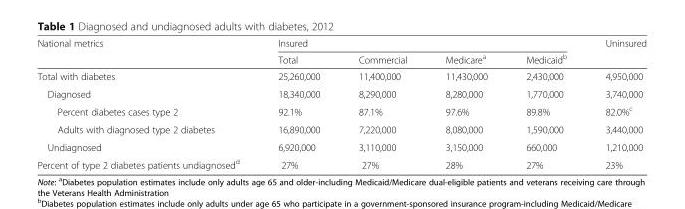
<table><thead><tr><td rowspan="2">National metrics</td><td colspan="4">Insured</td><td rowspan="2">Uninsured</td></tr><tr><td>Total</td><td>Commercial</td><td>Medicare<sup>a</sup></td><td>Medicaid<sup>b</sup></td></tr></thead><tbody><tr><td>Total with diabetes</td><td>25,260,000</td><td>11,400,000</td><td>11,430,000</td><td>2,430,000</td><td>4,950,000</td></tr><tr><td>Diagnosed</td><td>18,340,000</td><td>8,290,000</td><td>8,280,000</td><td>1,770,000</td><td>3,740,000</td></tr><tr><td>Percent diabetes cases type 2</td><td>92.1%</td><td>87.1%</td><td>97.6%</td><td>89.8%</td><td>82.0%<sup>c</sup></td></tr><tr><td>Adults with diagnosed type 2 diabetes</td><td>16,890,000</td><td>7,220,000</td><td>8,080,000</td><td>1,590,000</td><td>3,440,000</td></tr><tr><td>Undiagnosed</td><td>6,920,000</td><td>3,110,000</td><td>3,150,000</td><td>660,000</td><td>1,210,000</td></tr><tr><td>Percent of type 2 diabetes patients undiagnosed<sup>d</sup></td><td>27%</td><td>27%</td><td>28%</td><td>27%</td><td>23%</td></tr></tbody></table>